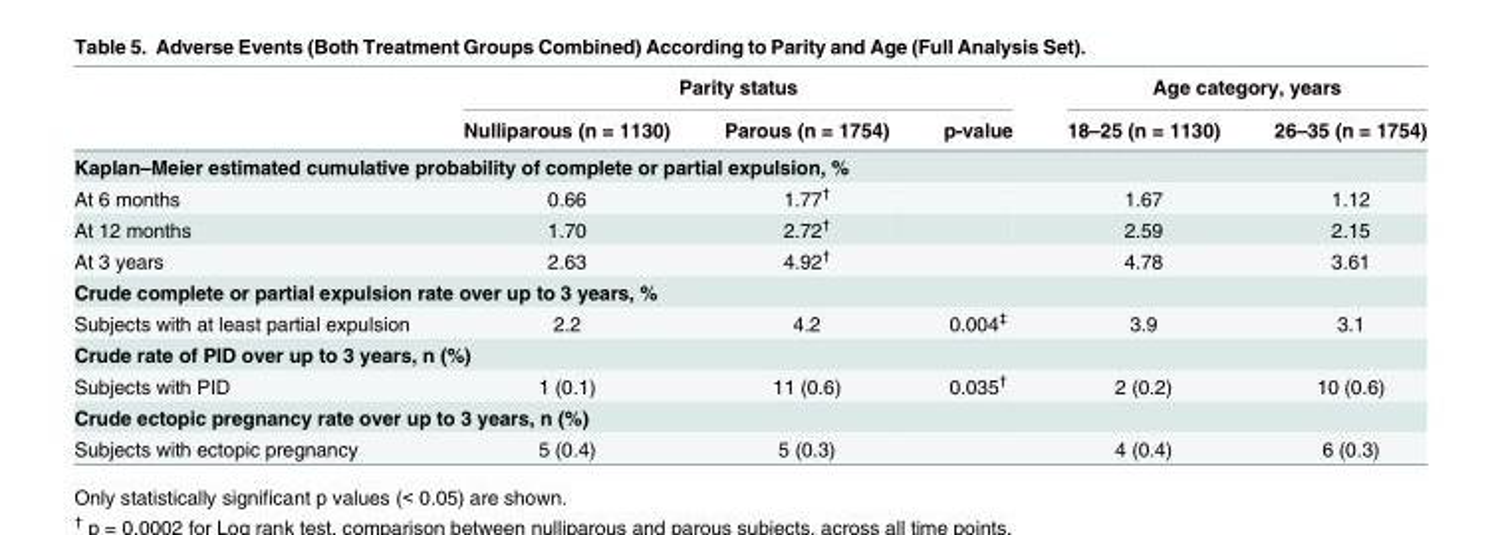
<table><thead><tr><td rowspan="2"></td><td colspan="3">Parity status</td><td colspan="2">Age category, years</td></tr><tr><td>Nulliparous (n = 1130)</td><td>Parous (n = 1754)</td><td>p-value</td><td>18–25 (n = 1130)</td><td>26–35 (n = 1754)</td></tr></thead><tbody><tr><td colspan="6">Kaplan–Meier estimated cumulative probability of complete or partial expulsion, %</td></tr><tr><td>At 6 months</td><td>0.66</td><td>1.77<sup>†</sup></td><td></td><td>1.67</td><td>1.12</td></tr><tr><td>At 12 months</td><td>1.70</td><td>2.72<sup>†</sup></td><td></td><td>2.59</td><td>2.15</td></tr><tr><td>At 3 years</td><td>2.63</td><td>4.92<sup>†</sup></td><td></td><td>4.78</td><td>3.61</td></tr><tr><td colspan="6">Crude complete or partial expulsion rate over up to 3 years, %</td></tr><tr><td>Subjects with at least partial expulsion</td><td>2.2</td><td>4.2</td><td>0.004<sup>‡</sup></td><td>3.9</td><td>3.1</td></tr><tr><td colspan="6">Crude rate of PID over up to 3 years, n (%)</td></tr><tr><td>Subjects with PID</td><td>1 (0.1)</td><td>11 (0.6)</td><td>0.035<sup>†</sup></td><td>2 (0.2)</td><td>10 (0.6)</td></tr><tr><td colspan="6">Crude ectopic pregnancy rate over up to 3 years, n (%)</td></tr><tr><td>Subjects with ectopic pregnancy</td><td>5 (0.4)</td><td>5 (0.3)</td><td></td><td>4 (0.4)</td><td>6 (0.3)</td></tr></tbody></table>